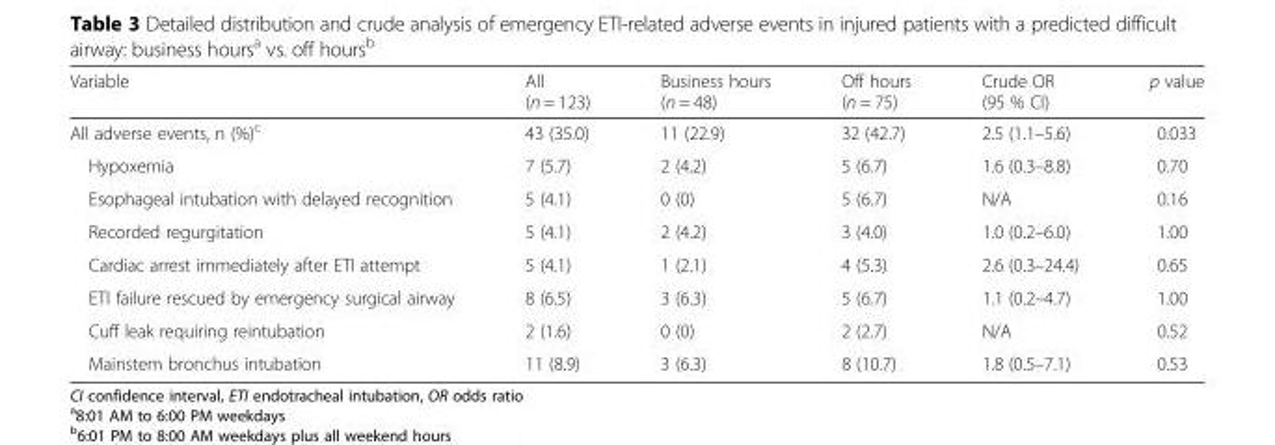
<table><thead><tr><td>Variable</td><td>All (n = 123)</td><td>Business hours (n = 48)</td><td>Off hours (n = 75)</td><td>Crude OR (95 % CI)</td><td>p value</td></tr></thead><tbody><tr><td>All adverse events, n (%)<sup>c</sup></td><td>43 (35.0)</td><td>11 (22.9)</td><td>32 (42.7)</td><td>2.5 (1.1–5.6)</td><td>0.033</td></tr><tr><td>Hypoxemia</td><td>7 (5.7)</td><td>2 (4.2)</td><td>5 (6.7)</td><td>1.6 (0.3–8.8)</td><td>0.70</td></tr><tr><td>Esophageal intubation with delayed recognition</td><td>5 (4.1)</td><td>0 (0)</td><td>5 (6.7)</td><td>N/A</td><td>0.16</td></tr><tr><td>Recorded regurgitation</td><td>5 (4.1)</td><td>2 (4.2)</td><td>3 (4.0)</td><td>1.0 (0.2–6.0)</td><td>1.00</td></tr><tr><td>Cardiac arrest immediately after ETI attempt</td><td>5 (4.1)</td><td>1 (2.1)</td><td>4 (5.3)</td><td>2.6 (0.3–24.4)</td><td>0.65</td></tr><tr><td>ETI failure rescued by emergency surgical airway</td><td>8 (6.5)</td><td>3 (6.3)</td><td>5 (6.7)</td><td>1.1 (0.2–4.7)</td><td>1.00</td></tr><tr><td>Cuff leak requiring reintubation</td><td>2 (1.6)</td><td>0 (0)</td><td>2 (2.7)</td><td>N/A</td><td>0.52</td></tr><tr><td>Mainstem bronchus intubation</td><td>11 (8.9)</td><td>3 (6.3)</td><td>8 (10.7)</td><td>1.8 (0.5–7.1)</td><td>0.53</td></tr></tbody></table>